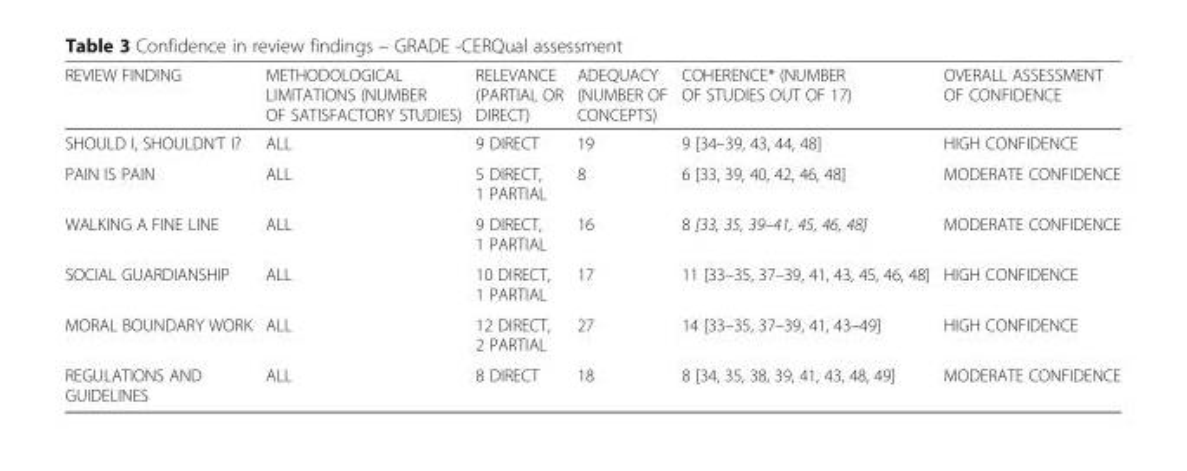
<table><thead><tr><td>REVIEW FINDING</td><td>METHODOLOGICAL LIMITATIONS (NUMBER OF SATISFACTORY STUDIES)</td><td>RELEVANCE (PARTIAL OR DIRECT)</td><td>ADEQUACY (NUMBER OF CONCEPTS)</td><td>COHERENCE* (NUMBER OF STUDIES OUT OF 17)</td><td>OVERALL ASSESSMENT OF CONFIDENCE</td></tr></thead><tbody><tr><td>SHOULD I, SHOULDN’T I?</td><td>ALL</td><td>9 DIRECT</td><td>19</td><td>9 [34–39, 43, 44, 48]</td><td>HIGH CONFIDENCE</td></tr><tr><td>PAIN IS PAIN</td><td>ALL</td><td>5 DIRECT, 1 PARTIAL</td><td>8</td><td>6 [33, 39, 40, 42, 46, 48]</td><td>MODERATE CONFIDENCE</td></tr><tr><td>WALKING A FINE LINE</td><td>ALL</td><td>9 DIRECT, 1 PARTIAL</td><td>16</td><td>8 [33, 35, 39–41, 45, 46, 48]</td><td>MODERATE CONFIDENCE</td></tr><tr><td>SOCIAL GUARDIANSHIP</td><td>ALL</td><td>10 DIRECT, 1 PARTIAL</td><td>17</td><td>11 [33–35, 37–39, 41, 43, 45, 46, 48]</td><td>HIGH CONFIDENCE</td></tr><tr><td>MORAL BOUNDARY WORK</td><td>ALL</td><td>12 DIRECT, 2 PARTIAL</td><td>27</td><td>14 [33–35, 37–39, 41, 43–49]</td><td>HIGH CONFIDENCE</td></tr><tr><td>REGULATIONS AND GUIDELINES</td><td>ALL</td><td>8 DIRECT</td><td>18</td><td>8 [34, 35, 38, 39, 41, 43, 48, 49]</td><td>MODERATE CONFIDENCE</td></tr></tbody></table>